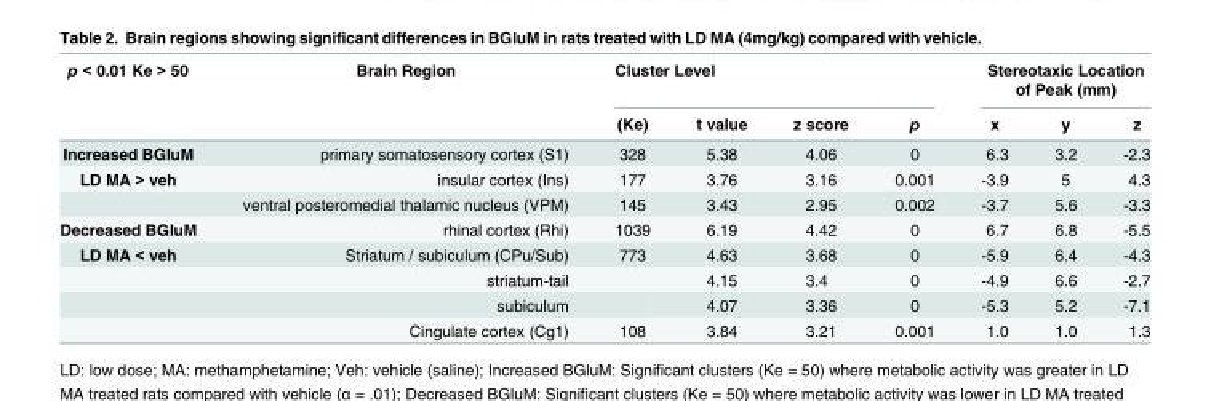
<table><thead><tr><td rowspan="2">p &lt; 0.01 Ke &gt; 50</td><td rowspan="2">Brain Region</td><td colspan="4">Cluster Level</td><td colspan="3">Stereotaxic Location of Peak (mm)</td></tr><tr><td>(Ke)</td><td>t value</td><td>z score</td><td>p</td><td>x</td><td>y</td><td>z</td></tr></thead><tbody><tr><td>Increased BGluM</td><td>primary somatosensory cortex (S1)</td><td>328</td><td>5.38</td><td>4.06</td><td>0</td><td>6.3</td><td>3.2</td><td>-2.3</td></tr><tr><td rowspan="2">LD MA &gt; veh</td><td>insular cortex (Ins)</td><td>177</td><td>3.76</td><td>3.16</td><td>0.001</td><td>-3.9</td><td>5</td><td>4.3</td></tr><tr><td>ventral posteromedial thalamic nucleus (VPM)</td><td>145</td><td>3.43</td><td>2.95</td><td>0.002</td><td>-3.7</td><td>5.6</td><td>-3.3</td></tr><tr><td>Decreased BGluM</td><td>rhinal cortex (Rhi)</td><td>1039</td><td>6.19</td><td>4.42</td><td>0</td><td>6.7</td><td>6.8</td><td>-5.5</td></tr><tr><td rowspan="4">LD MA &lt; veh</td><td>Striatum / subiculum (CPu/Sub)</td><td>773</td><td>4.63</td><td>3.68</td><td>0</td><td>-5.9</td><td>6.4</td><td>-4.3</td></tr><tr><td>striatum-tail</td><td></td><td>4.15</td><td>3.4</td><td>0</td><td>-4.9</td><td>6.6</td><td>-2.7</td></tr><tr><td>subiculum</td><td></td><td>4.07</td><td>3.36</td><td>0</td><td>-5.3</td><td>5.2</td><td>-7.1</td></tr><tr><td>Cingulate cortex (Cg1)</td><td>108</td><td>3.84</td><td>3.21</td><td>0.001</td><td>1.0</td><td>1.0</td><td>1.3</td></tr></tbody></table>